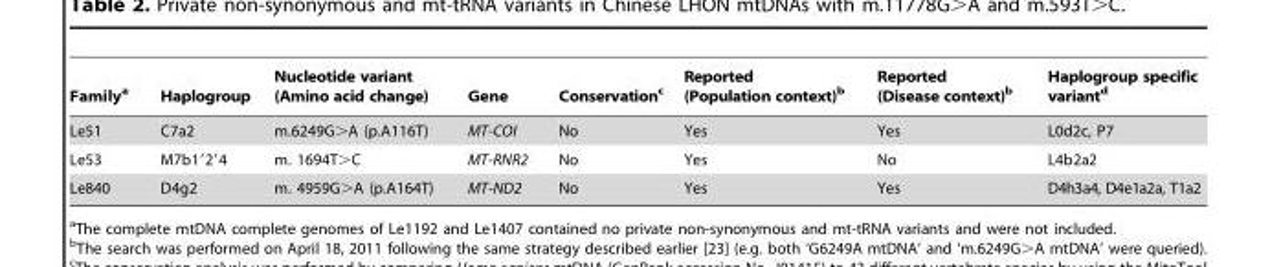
<table><thead><tr><td>Family<sup>a</sup></td><td>Haplogroup</td><td>Nucleotide variant (Amino acid change)</td><td>Gene</td><td>Conservation<sup>c</sup></td><td>Reported (Population context)<sup>b</sup></td><td>Reported (Disease context)<sup>b</sup></td><td>Haplogroup specific variant<sup>d</sup></td></tr></thead><tbody><tr><td>Le51</td><td>C7a2</td><td>m.6249G&gt;A (p.A116T)</td><td>MT-COI</td><td>No</td><td>Yes</td><td>Yes</td><td>L0d2c, P7</td></tr><tr><td>Le53</td><td>M7b1′2′4</td><td>m. 1694T&gt;C</td><td>MT-RNR2</td><td>No</td><td>Yes</td><td>No</td><td>L4b2a2</td></tr><tr><td>Le840</td><td>D4g2</td><td>m. 4959G&gt;A (p.A164T)</td><td>MT-ND2</td><td>No</td><td>Yes</td><td>Yes</td><td>D4h3a4, D4e1a2a, T1a2</td></tr></tbody></table>